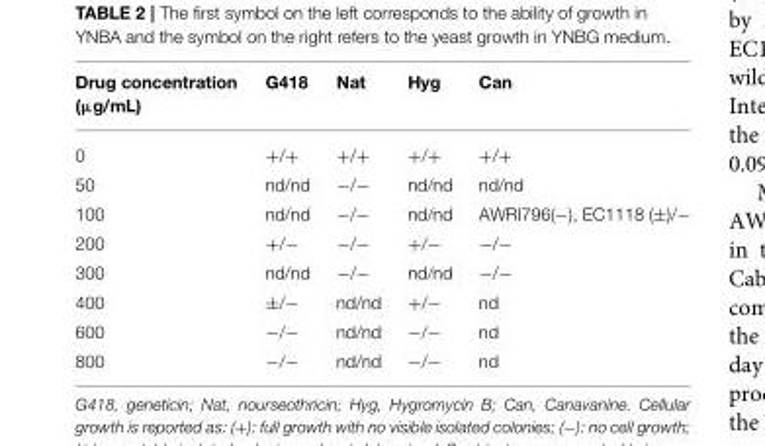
<table><thead><tr><td>Drug concentration (µg/mL)</td><td>G418</td><td>Nat</td><td>Hyg</td><td>Can</td></tr></thead><tbody><tr><td>0</td><td>+/+</td><td>+/+</td><td>+/+</td><td>+/+</td></tr><tr><td>50</td><td>nd/nd</td><td>−/−</td><td>nd/nd</td><td>nd/nd</td></tr><tr><td>100</td><td>nd/nd</td><td>−/−</td><td>nd/nd</td><td>AWRI796(−), EC1118 (±)/−</td></tr><tr><td>200</td><td>+/−</td><td>−/−</td><td>+/−</td><td>−/−</td></tr><tr><td>300</td><td>nd/nd</td><td>−/−</td><td>nd/nd</td><td>−/−</td></tr><tr><td>400</td><td>±/−</td><td>nd/nd</td><td>+/−</td><td>nd</td></tr><tr><td>600</td><td>−/−</td><td>nd/nd</td><td>−/−</td><td>nd</td></tr><tr><td>800</td><td>−/−</td><td>nd/nd</td><td>−/−</td><td>nd</td></tr></tbody></table>